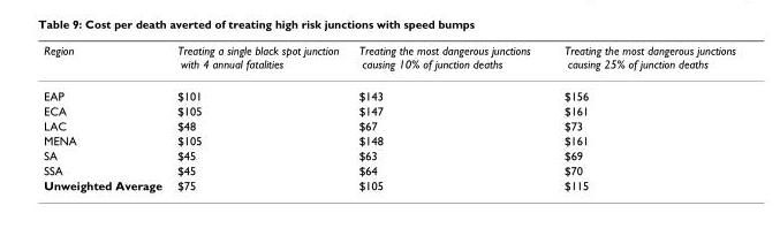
<table><thead><tr><td>Region</td><td>Treating a single black spot junction with 4 annual fatalities</td><td>Treating the most dangerous junctions causing 10% of junction deaths</td><td>Treating the most dangerous junctions causing 25% of junction deaths</td></tr></thead><tbody><tr><td>EAP</td><td>$101</td><td>$143</td><td>$156</td></tr><tr><td>ECA</td><td>$105</td><td>$147</td><td>$161</td></tr><tr><td>LAC</td><td>$48</td><td>$67</td><td>$73</td></tr><tr><td>MENA</td><td>$105</td><td>$148</td><td>$161</td></tr><tr><td>SA</td><td>$45</td><td>$63</td><td>$69</td></tr><tr><td>SSA</td><td>$45</td><td>$64</td><td>$70</td></tr><tr><td>Unweighted Average</td><td>$75</td><td>$105</td><td>$115</td></tr></tbody></table>